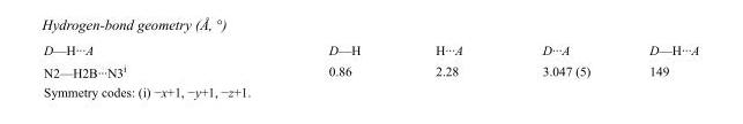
<table><tbody><tr><td>D—H···A</td><td>D—H</td><td>H···A</td><td>D···A</td><td>D—H···A</td></tr><tr><td>N2—H2B···N3<sup>i</sup></td><td>0.86</td><td>2.28</td><td>3.047 (5)</td><td>149</td></tr></tbody></table>